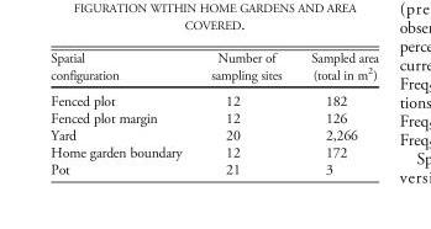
<table><thead><tr><td>Spatial configuration</td><td>Number of sampling sites</td><td>Sampled area (total in m<sup>2</sup>)</td></tr></thead><tbody><tr><td>Fenced plot</td><td>12</td><td>182</td></tr><tr><td>Fenced plot margin</td><td>12</td><td>126</td></tr><tr><td>Yard</td><td>20</td><td>2,266</td></tr><tr><td>Home garden boundary</td><td>12</td><td>172</td></tr><tr><td>Pot</td><td>21</td><td>3</td></tr></tbody></table>